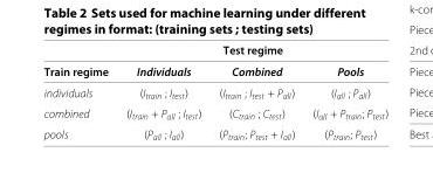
<table><thead><tr><td rowspan="2">Train regime</td><td colspan="3">Test regime</td></tr><tr><td>Individuals</td><td>Combined</td><td>Pools</td></tr></thead><tbody><tr><td>individuals</td><td>(I<sub>train</sub> ; I<sub>test</sub>)</td><td>(I<sub>train</sub> ; I<sub>test</sub> + P<sub>all</sub>)</td><td>(I<sub>all</sub> ; P<sub>all</sub>)</td></tr><tr><td>combined</td><td>(I<sub>train</sub> + P<sub>all</sub> ; I<sub>test</sub>)</td><td>(C<sub>train</sub> ; C<sub>test</sub>)</td><td>(I<sub>all</sub> + P<sub>train</sub>; P<sub>test</sub>)</td></tr><tr><td>pools</td><td>(P<sub>all</sub> ; I<sub>all</sub>)</td><td>(P<sub>train</sub>; P<sub>test</sub> + I<sub>all</sub>)</td><td>(P<sub>train</sub>; P<sub>test</sub>)</td></tr></tbody></table>